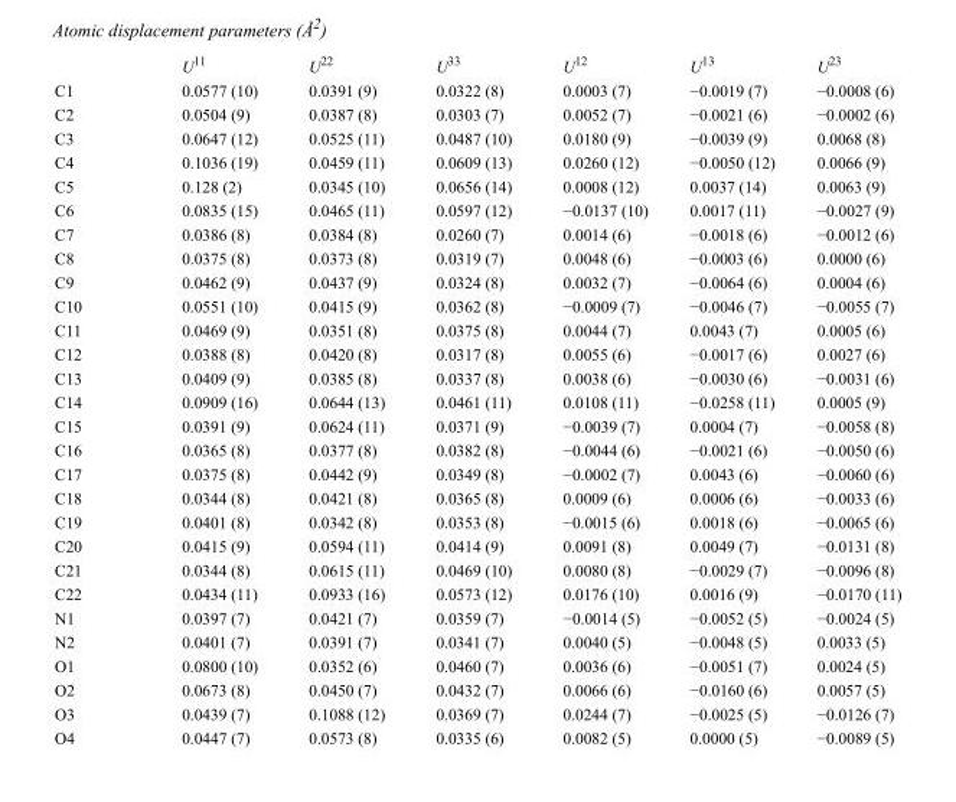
<table><thead><tr><td></td><td>U<sup>11</sup></td><td>U<sup>22</sup></td><td>U<sup>33</sup></td><td>U<sup>12</sup></td><td>U<sup>13</sup></td><td>U<sup>23</sup></td></tr></thead><tbody><tr><td>C1</td><td>0.0577 (10)</td><td>0.0391 (9)</td><td>0.0322 (8)</td><td>0.0003 (7)</td><td>−0.0019 (7)</td><td>−0.0008 (6)</td></tr><tr><td>C2</td><td>0.0504 (9)</td><td>0.0387 (8)</td><td>0.0303 (7)</td><td>0.0052 (7)</td><td>−0.0021 (6)</td><td>−0.0002 (6)</td></tr><tr><td>C3</td><td>0.0647 (12)</td><td>0.0525 (11)</td><td>0.0487 (10)</td><td>0.0180 (9)</td><td>−0.0039 (9)</td><td>0.0068 (8)</td></tr><tr><td>C4</td><td>0.1036 (19)</td><td>0.0459 (11)</td><td>0.0609 (13)</td><td>0.0260 (12)</td><td>−0.0050 (12)</td><td>0.0066 (9)</td></tr><tr><td>C5</td><td>0.128 (2)</td><td>0.0345 (10)</td><td>0.0656 (14)</td><td>0.0008 (12)</td><td>0.0037 (14)</td><td>0.0063 (9)</td></tr><tr><td>C6</td><td>0.0835 (15)</td><td>0.0465 (11)</td><td>0.0597 (12)</td><td>−0.0137 (10)</td><td>0.0017 (11)</td><td>−0.0027 (9)</td></tr><tr><td>C7</td><td>0.0386 (8)</td><td>0.0384 (8)</td><td>0.0260 (7)</td><td>0.0014 (6)</td><td>−0.0018 (6)</td><td>−0.0012 (6)</td></tr><tr><td>C8</td><td>0.0375 (8)</td><td>0.0373 (8)</td><td>0.0319 (7)</td><td>0.0048 (6)</td><td>−0.0003 (6)</td><td>0.0000 (6)</td></tr><tr><td>C9</td><td>0.0462 (9)</td><td>0.0437 (9)</td><td>0.0324 (8)</td><td>0.0032 (7)</td><td>−0.0064 (6)</td><td>0.0004 (6)</td></tr><tr><td>C10</td><td>0.0551 (10)</td><td>0.0415 (9)</td><td>0.0362 (8)</td><td>−0.0009 (7)</td><td>−0.0046 (7)</td><td>−0.0055 (7)</td></tr><tr><td>C11</td><td>0.0469 (9)</td><td>0.0351 (8)</td><td>0.0375 (8)</td><td>0.0044 (7)</td><td>0.0043 (7)</td><td>0.0005 (6)</td></tr><tr><td>C12</td><td>0.0388 (8)</td><td>0.0420 (8)</td><td>0.0317 (8)</td><td>0.0055 (6)</td><td>−0.0017 (6)</td><td>0.0027 (6)</td></tr><tr><td>C13</td><td>0.0409 (9)</td><td>0.0385 (8)</td><td>0.0337 (8)</td><td>0.0038 (6)</td><td>−0.0030 (6)</td><td>−0.0031 (6)</td></tr><tr><td>C14</td><td>0.0909 (16)</td><td>0.0644 (13)</td><td>0.0461 (11)</td><td>0.0108 (11)</td><td>−0.0258 (11)</td><td>0.0005 (9)</td></tr><tr><td>C15</td><td>0.0391 (9)</td><td>0.0624 (11)</td><td>0.0371 (9)</td><td>−0.0039 (7)</td><td>0.0004 (7)</td><td>−0.0058 (8)</td></tr><tr><td>C16</td><td>0.0365 (8)</td><td>0.0377 (8)</td><td>0.0382 (8)</td><td>−0.0044 (6)</td><td>−0.0021 (6)</td><td>−0.0050 (6)</td></tr><tr><td>C17</td><td>0.0375 (8)</td><td>0.0442 (9)</td><td>0.0349 (8)</td><td>−0.0002 (7)</td><td>0.0043 (6)</td><td>−0.0060 (6)</td></tr><tr><td>C18</td><td>0.0344 (8)</td><td>0.0421 (8)</td><td>0.0365 (8)</td><td>0.0009 (6)</td><td>0.0006 (6)</td><td>−0.0033 (6)</td></tr><tr><td>C19</td><td>0.0401 (8)</td><td>0.0342 (8)</td><td>0.0353 (8)</td><td>−0.0015 (6)</td><td>0.0018 (6)</td><td>−0.0065 (6)</td></tr><tr><td>C20</td><td>0.0415 (9)</td><td>0.0594 (11)</td><td>0.0414 (9)</td><td>0.0091 (8)</td><td>0.0049 (7)</td><td>−0.0131 (8)</td></tr><tr><td>C21</td><td>0.0344 (8)</td><td>0.0615 (11)</td><td>0.0469 (10)</td><td>0.0080 (8)</td><td>−0.0029 (7)</td><td>−0.0096 (8)</td></tr><tr><td>C22</td><td>0.0434 (11)</td><td>0.0933 (16)</td><td>0.0573 (12)</td><td>0.0176 (10)</td><td>0.0016 (9)</td><td>−0.0170 (11)</td></tr><tr><td>N1</td><td>0.0397 (7)</td><td>0.0421 (7)</td><td>0.0359 (7)</td><td>−0.0014 (5)</td><td>−0.0052 (5)</td><td>−0.0024 (5)</td></tr><tr><td>N2</td><td>0.0401 (7)</td><td>0.0391 (7)</td><td>0.0341 (7)</td><td>0.0040 (5)</td><td>−0.0048 (5)</td><td>0.0033 (5)</td></tr><tr><td>O1</td><td>0.0800 (10)</td><td>0.0352 (6)</td><td>0.0460 (7)</td><td>0.0036 (6)</td><td>−0.0051 (7)</td><td>0.0024 (5)</td></tr><tr><td>O2</td><td>0.0673 (8)</td><td>0.0450 (7)</td><td>0.0432 (7)</td><td>0.0066 (6)</td><td>−0.0160 (6)</td><td>0.0057 (5)</td></tr><tr><td>O3</td><td>0.0439 (7)</td><td>0.1088 (12)</td><td>0.0369 (7)</td><td>0.0244 (7)</td><td>−0.0025 (5)</td><td>−0.0126 (7)</td></tr><tr><td>O4</td><td>0.0447 (7)</td><td>0.0573 (8)</td><td>0.0335 (6)</td><td>0.0082 (5)</td><td>0.0000 (5)</td><td>−0.0089 (5)</td></tr></tbody></table>